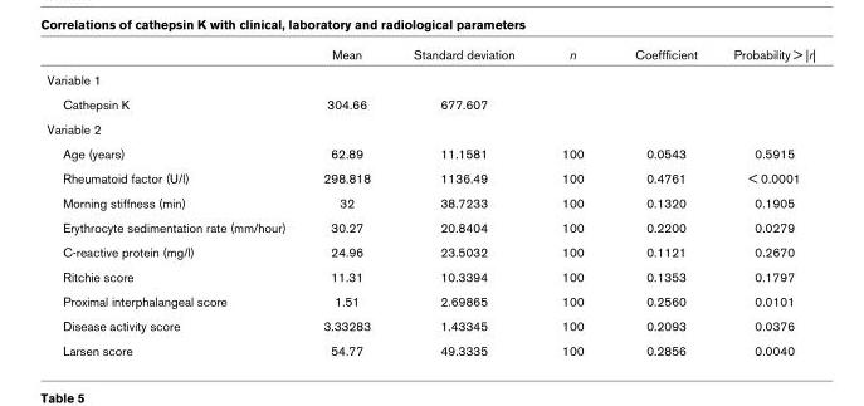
<table><thead><tr><td></td><td>Mean</td><td>Standard deviation</td><td>n</td><td>Coeffficient</td><td>Probability &gt; |r|</td></tr></thead><tbody><tr><td colspan="6">Variable 1</td></tr><tr><td>Cathepsin K</td><td>304.66</td><td>677.607</td><td></td><td></td><td></td></tr><tr><td colspan="6">Variable 2</td></tr><tr><td>Age (years)</td><td>62.89</td><td>11.1581</td><td>100</td><td>0.0543</td><td>0.5915</td></tr><tr><td>Rheumatoid factor (U/l)</td><td>298.818</td><td>1136.49</td><td>100</td><td>0.4761</td><td>&lt; 0.0001</td></tr><tr><td>Morning stiffness (min)</td><td>32</td><td>38.7233</td><td>100</td><td>0.1320</td><td>0.1905</td></tr><tr><td>Erythrocyte sedimentation rate (mm/hour)</td><td>30.27</td><td>20.8404</td><td>100</td><td>0.2200</td><td>0.0279</td></tr><tr><td>C-reactive protein (mg/l)</td><td>24.96</td><td>23.5032</td><td>100</td><td>0.1121</td><td>0.2670</td></tr><tr><td>Ritchie score</td><td>11.31</td><td>10.3394</td><td>100</td><td>0.1353</td><td>0.1797</td></tr><tr><td>Proximal interphalangeal score</td><td>1.51</td><td>2.69865</td><td>100</td><td>0.2560</td><td>0.0101</td></tr><tr><td>Disease activity score</td><td>3.33283</td><td>1.43345</td><td>100</td><td>0.2093</td><td>0.0376</td></tr><tr><td>Larsen score</td><td>54.77</td><td>49.3335</td><td>100</td><td>0.2856</td><td>0.0040</td></tr></tbody></table>